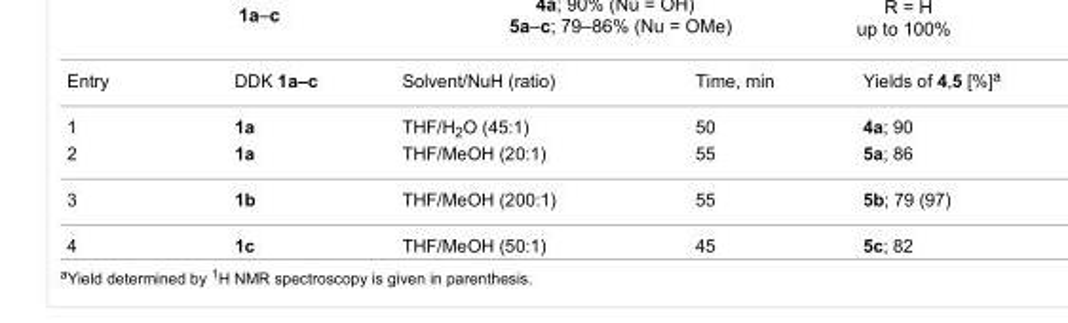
<table><tbody><tr><td>Entry</td><td>DDK 1a–c</td><td>Solvent/NuH (ratio)</td><td>Time, min</td><td>Yields of 4,5 [%]<sup>a</sup></td></tr><tr><td>1</td><td>1a</td><td>THF/Н<sub>2</sub>О (45:1)</td><td>50</td><td>4a; 90</td></tr><tr><td>2</td><td>1a</td><td>THF/МеОН (20:1)</td><td>55</td><td>5a; 86</td></tr><tr><td>3</td><td>1b</td><td>THF/МеОН (200:1)</td><td>55</td><td>5b; 79 (97)</td></tr><tr><td>4</td><td>1c</td><td>THF/МеОН (50:1)</td><td>45</td><td>5с; 82</td></tr></tbody></table>